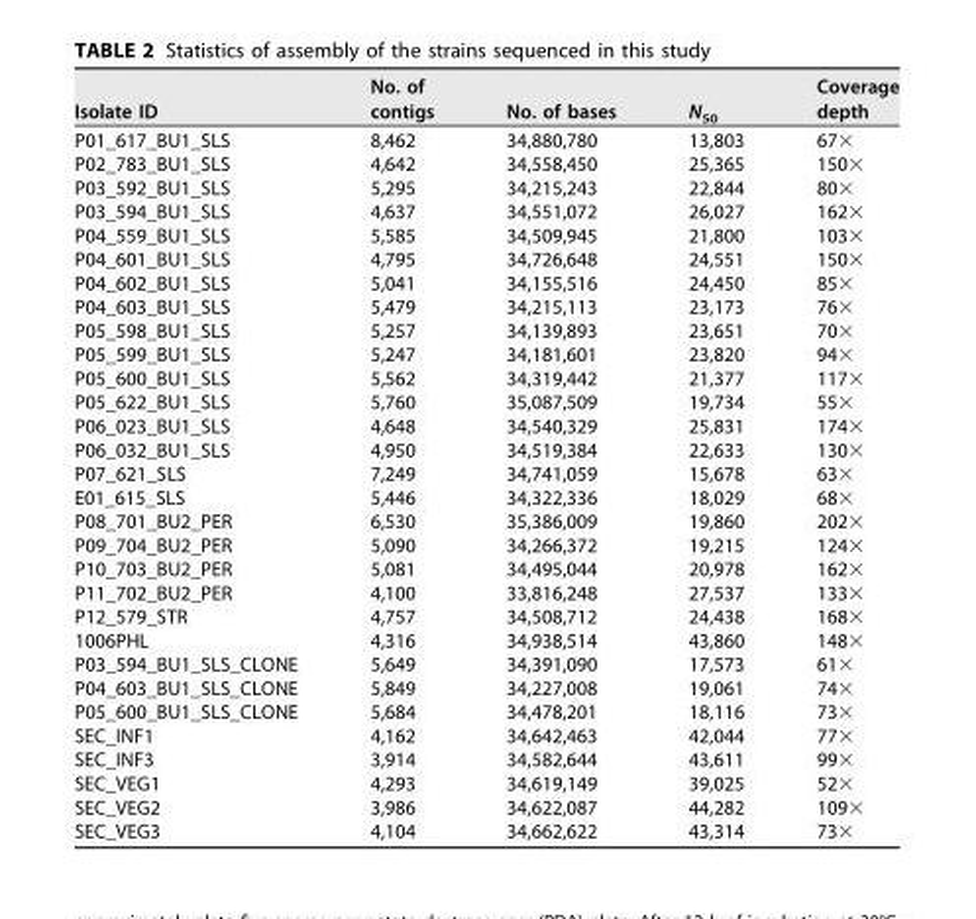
<table><thead><tr><td>Isolate ID</td><td>No. of contigs</td><td>No. of bases</td><td>N<sub>50</sub></td><td>Coverage depth</td></tr></thead><tbody><tr><td>P01_617_BU1_SLS</td><td>8,462</td><td>34,880,780</td><td>13,803</td><td>67×</td></tr><tr><td>P02_783_BU1_SLS</td><td>4,642</td><td>34,558,450</td><td>25,365</td><td>150×</td></tr><tr><td>P03_592_BU1_SLS</td><td>5,295</td><td>34,215,243</td><td>22,844</td><td>80×</td></tr><tr><td>P03_594_BU1_SLS</td><td>4,637</td><td>34,551,072</td><td>26,027</td><td>162×</td></tr><tr><td>P04_559_BU1_SLS</td><td>5,585</td><td>34,509,945</td><td>21,800</td><td>103×</td></tr><tr><td>P04_601_BU1_SLS</td><td>4,795</td><td>34,726,648</td><td>24,551</td><td>150×</td></tr><tr><td>P04_602_BU1_SLS</td><td>5,041</td><td>34,155,516</td><td>24,450</td><td>85×</td></tr><tr><td>P04_603_BU1_SLS</td><td>5,479</td><td>34,215,113</td><td>23,173</td><td>76×</td></tr><tr><td>P05_598_BU1_SLS</td><td>5,257</td><td>34,139,893</td><td>23,651</td><td>70×</td></tr><tr><td>P05_599_BU1_SLS</td><td>5,247</td><td>34,181,601</td><td>23,820</td><td>94×</td></tr><tr><td>P05_600_BU1_SLS</td><td>5,562</td><td>34,319,442</td><td>21,377</td><td>117×</td></tr><tr><td>P05_622_BU1_SLS</td><td>5,760</td><td>35,087,509</td><td>19,734</td><td>55×</td></tr><tr><td>P06_023_BU1_SLS</td><td>4,648</td><td>34,540,329</td><td>25,831</td><td>174×</td></tr><tr><td>P06_032_BU1_SLS</td><td>4,950</td><td>34,519,384</td><td>22,633</td><td>130×</td></tr><tr><td>P07_621_SLS</td><td>7,249</td><td>34,741,059</td><td>15,678</td><td>63×</td></tr><tr><td>E01_615_SLS</td><td>5,446</td><td>34,322,336</td><td>18,029</td><td>68×</td></tr><tr><td>P08_701_BU2_PER</td><td>6,530</td><td>35,386,009</td><td>19,860</td><td>202×</td></tr><tr><td>P09_704_BU2_PER</td><td>5,090</td><td>34,266,372</td><td>19,215</td><td>124×</td></tr><tr><td>P10_703_BU2_PER</td><td>5,081</td><td>34,495,044</td><td>20,978</td><td>162×</td></tr><tr><td>P11_702_BU2_PER</td><td>4,100</td><td>33,816,248</td><td>27,537</td><td>133×</td></tr><tr><td>P12_579_STR</td><td>4,757</td><td>34,508,712</td><td>24,438</td><td>168×</td></tr><tr><td>1006PHL</td><td>4,316</td><td>34,938,514</td><td>43,860</td><td>148×</td></tr><tr><td>P03_594_BU1_SLS_CLONE</td><td>5,649</td><td>34,391,090</td><td>17,573</td><td>61×</td></tr><tr><td>P04_603_BU1_SLS_CLONE</td><td>5,849</td><td>34,227,008</td><td>19,061</td><td>74×</td></tr><tr><td>P05_600_BU1_SLS_CLONE</td><td>5,684</td><td>34,478,201</td><td>18,116</td><td>73×</td></tr><tr><td>SEC_INF1</td><td>4,162</td><td>34,642,463</td><td>42,044</td><td>77×</td></tr><tr><td>SEC_INF3</td><td>3,914</td><td>34,582,644</td><td>43,611</td><td>99×</td></tr><tr><td>SEC_VEG1</td><td>4,293</td><td>34,619,149</td><td>39,025</td><td>52×</td></tr><tr><td>SEC_VEG2</td><td>3,986</td><td>34,622,087</td><td>44,282</td><td>109×</td></tr><tr><td>SEC_VEG3</td><td>4,104</td><td>34,662,622</td><td>43,314</td><td>73×</td></tr></tbody></table>